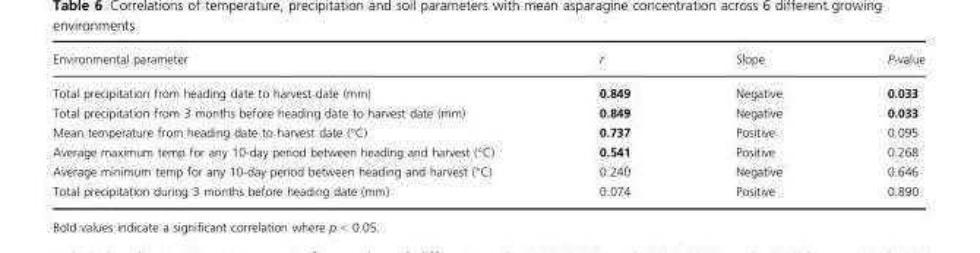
<table><thead><tr><td>Environmental parameter</td><td>r</td><td>Slope</td><td>P-value</td></tr></thead><tbody><tr><td>Total precipitation from heading date to harvest date (mm)</td><td>0.849</td><td>Negative</td><td>0.033</td></tr><tr><td>Total precipitation from 3 months before heading date to harvest date (mm)</td><td>0.849</td><td>Negative</td><td>0.033</td></tr><tr><td>Mean temperature from heading date to harvest date (°C)</td><td>0.737</td><td>Positive</td><td>0.095</td></tr><tr><td>Average maximum temp for any 10-day period between heading and harvest (°C)</td><td>0.541</td><td>Positive</td><td>0.268</td></tr><tr><td>Average minimum temp for any 10-day period between heading and harvest (°C)</td><td>0.240</td><td>Negative</td><td>0.646</td></tr><tr><td>Total precipitation during 3 months before heading date (mm)</td><td>0.074</td><td>Positive</td><td>0.890</td></tr></tbody></table>